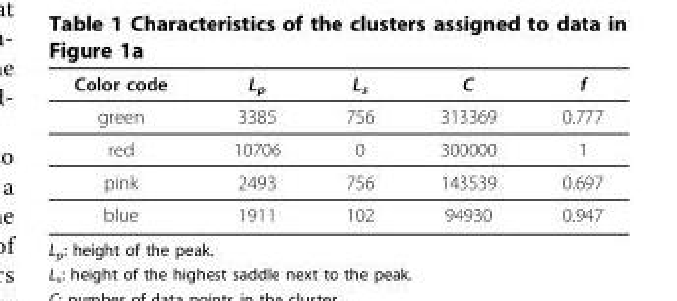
<table><thead><tr><td>Color code</td><td>L<sub>p</sub></td><td>L<sub>s</sub></td><td>C</td><td>f</td></tr></thead><tbody><tr><td>green</td><td>3385</td><td>756</td><td>313369</td><td>0.777</td></tr><tr><td>red</td><td>10706</td><td>0</td><td>300000</td><td>1</td></tr><tr><td>pink</td><td>2493</td><td>756</td><td>143539</td><td>0.697</td></tr><tr><td>blue</td><td>1911</td><td>102</td><td>94930</td><td>0.947</td></tr></tbody></table>